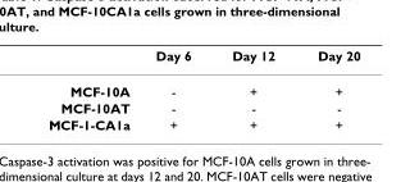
<table><thead><tr><td></td><td>Day 6</td><td>Day 12</td><td>Day 20</td></tr></thead><tbody><tr><td>MCF-10A</td><td>-</td><td>+</td><td>+</td></tr><tr><td>MCF-10AT</td><td>-</td><td>-</td><td>-</td></tr><tr><td>MCF-1-CA1a</td><td>+</td><td>+</td><td>+</td></tr></tbody></table>